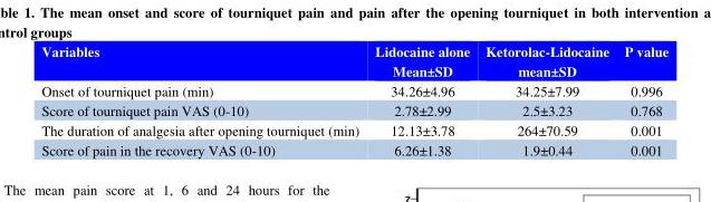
<table><thead><tr><td>P value</td><td>Ketorolac-Lidocaine mean±SD</td><td>Lidocaine alone Mean±SD</td><td>Variables</td></tr></thead><tbody><tr><td>0.996</td><td>34.25±7.99</td><td>34.26±4.96</td><td>Onset of tourniquet pain (min)</td></tr><tr><td>0.768</td><td>2.5±3.23</td><td>2.78±2.99</td><td>Score of tourniquet pain VAS (0-10)</td></tr><tr><td>0.001</td><td>264±70.59</td><td>12.13±3.78</td><td>The duration of analgesia after opening tourniquet (min)</td></tr><tr><td>0.001</td><td>1.9±0.44</td><td>6.26±1.38</td><td>Score of pain in the recovery VAS (0-10)</td></tr></tbody></table>